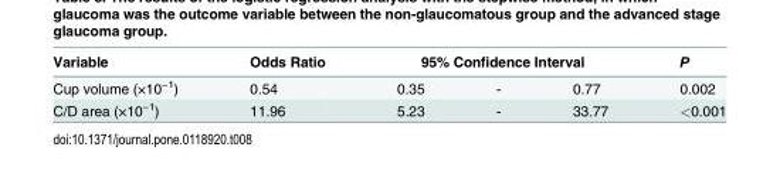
<table><thead><tr><td rowspan="2">Variable Cup volume (×10<sup>−1</sup>)</td><td rowspan="2">Odds Ratio 0.54</td><td colspan="3">95% Confidence Interval</td><td rowspan="2">P 0.002</td></tr><tr><td>0.35</td><td>-</td><td>0.77</td></tr></thead><tbody><tr><td>C/D area (×10<sup>−1</sup>)</td><td>11.96</td><td>5.23</td><td>-</td><td>33.77</td><td>&lt;0.001</td></tr></tbody></table>